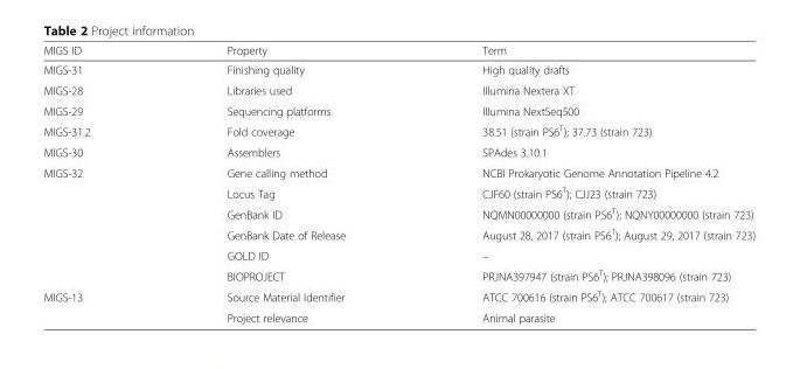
<table><thead><tr><td>MIGS ID</td><td>Property</td><td>Term</td></tr></thead><tbody><tr><td>MIGS-31</td><td>Finishing quality</td><td>High quality drafts</td></tr><tr><td>MIGS-28</td><td>Libraries used</td><td>Illumina Nextera XT</td></tr><tr><td>MIGS-29</td><td>Sequencing platforms</td><td>Illumina NextSeq500</td></tr><tr><td>MIGS-31.2</td><td>Fold coverage</td><td>38.51 (strain PS6<sup>T</sup>); 37.73 (strain 723)</td></tr><tr><td>MIGS-30</td><td>Assemblers</td><td>SPAdes 3.10.1</td></tr><tr><td rowspan="6">MIGS-32</td><td>Gene calling method</td><td>NCBI Prokaryotic Genome Annotation Pipeline 4.2</td></tr><tr><td>Locus Tag</td><td>CJF60 (strain PS6<sup>T</sup>); CJJ23 (strain 723)</td></tr><tr><td>GenBank ID</td><td>NQMN00000000 (strain PS6<sup>T</sup>); NQNY00000000 (strain 723)</td></tr><tr><td>GenBank Date of Release</td><td>August 28, 2017 (strain PS6<sup>T</sup>); August 29, 2017 (strain 723)</td></tr><tr><td>GOLD ID</td><td>–</td></tr><tr><td>BIOPROJECT</td><td>PRJNA397947 (strain PS6<sup>T</sup>); PRJNA398096 (strain 723)</td></tr><tr><td rowspan="2">MIGS-13</td><td>Source Material Identifier</td><td>ATCC 700616 (strain PS6<sup>T</sup>); ATCC 700617 (strain 723)</td></tr><tr><td>Project relevance</td><td>Animal parasite</td></tr></tbody></table>